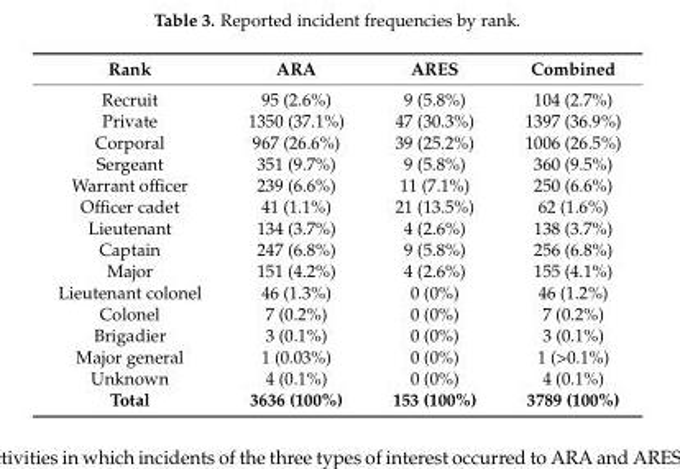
<table><thead><tr><td>Rank</td><td>ARA</td><td>ARES</td><td>Combined</td></tr></thead><tbody><tr><td>Recruit</td><td>95 (2.6%)</td><td>9 (5.8%)</td><td>104 (2.7%)</td></tr><tr><td>Private</td><td>1350 (37.1%)</td><td>47 (30.3%)</td><td>1397 (36.9%)</td></tr><tr><td>Corporal</td><td>967 (26.6%)</td><td>39 (25.2%)</td><td>1006 (26.5%)</td></tr><tr><td>Sergeant</td><td>351 (9.7%)</td><td>9 (5.8%)</td><td>360 (9.5%)</td></tr><tr><td>Warrant officer</td><td>239 (6.6%)</td><td>11 (7.1%)</td><td>250 (6.6%)</td></tr><tr><td>Officer cadet</td><td>41 (1.1%)</td><td>21 (13.5%)</td><td>62 (1.6%)</td></tr><tr><td>Lieutenant</td><td>134 (3.7%)</td><td>4 (2.6%)</td><td>138 (3.7%)</td></tr><tr><td>Captain</td><td>247 (6.8%)</td><td>9 (5.8%)</td><td>256 (6.8%)</td></tr><tr><td>Major</td><td>151 (4.2%)</td><td>4 (2.6%)</td><td>155 (4.1%)</td></tr><tr><td>Lieutenant colonel</td><td>46 (1.3%)</td><td>0 (0%)</td><td>46 (1.2%)</td></tr><tr><td>Colonel</td><td>7 (0.2%)</td><td>0 (0%)</td><td>7 (0.2%)</td></tr><tr><td>Brigadier</td><td>3 (0.1%)</td><td>0 (0%)</td><td>3 (0.1%)</td></tr><tr><td>Major general</td><td>1 (0.03%)</td><td>0 (0%)</td><td>1 (&gt;0.1%)</td></tr><tr><td>Unknown</td><td>4 (0.1%)</td><td>0 (0%)</td><td>4 (0.1%)</td></tr><tr><td>Total</td><td>3636 (100%)</td><td>153 (100%)</td><td>3789 (100%)</td></tr></tbody></table>